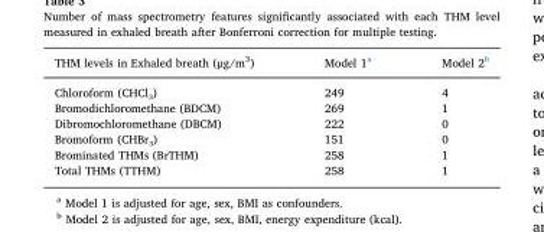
<table><thead><tr><td>THM levels in Exhaled breath (μg/m<sup>3</sup>)</td><td>Model 1<sup>a</sup></td><td>Model 2<sup>b</sup></td></tr></thead><tbody><tr><td>Chloroform (CHCl₃)</td><td>249</td><td>4</td></tr><tr><td>Bromodichloromethane (BDCM)</td><td>269</td><td>1</td></tr><tr><td>Dibromochloromethane (DBCM)</td><td>222</td><td>0</td></tr><tr><td>Bromoform (CHBr₃)</td><td>151</td><td>0</td></tr><tr><td>Brominated THMs (BrTHM)</td><td>258</td><td>1</td></tr><tr><td>Total THMs (TTHM)</td><td>258</td><td>1</td></tr></tbody></table>